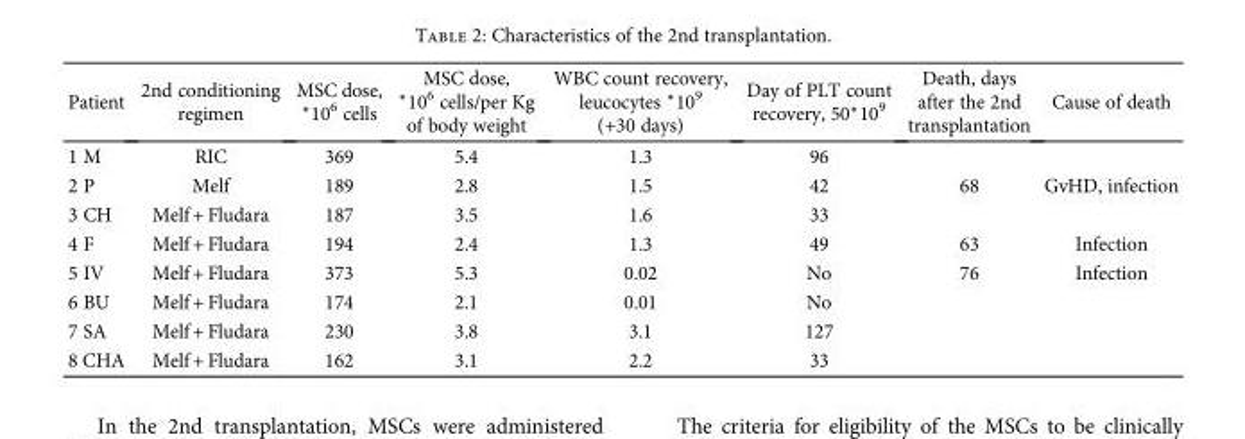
<table><thead><tr><td>Patient</td><td>2nd conditioning regimen</td><td>MSC dose, ∗10<sup>6</sup> cells</td><td>MSC dose, ∗10<sup>6</sup> cells/per Kg of body weight</td><td>WBC count recovery, leucocytes ∗10<sup>9</sup> (+30 days)</td><td>Day of PLT count recovery, 50∗10<sup>9</sup></td><td>Death, days after the 2nd transplantation</td><td>Cause of death</td></tr></thead><tbody><tr><td>1 M</td><td>RIC</td><td>369</td><td>5.4</td><td>1.3</td><td>96</td><td></td><td></td></tr><tr><td>2 P</td><td>Melf</td><td>189</td><td>2.8</td><td>1.5</td><td>42</td><td>68</td><td>GvHD, infection</td></tr><tr><td>3 CH</td><td>Melf + Fludara</td><td>187</td><td>3.5</td><td>1.6</td><td>33</td><td></td><td></td></tr><tr><td>4 F</td><td>Melf + Fludara</td><td>194</td><td>2.4</td><td>1.3</td><td>49</td><td>63</td><td>Infection</td></tr><tr><td>5 IV</td><td>Melf + Fludara</td><td>373</td><td>5.3</td><td>0.02</td><td>No</td><td>76</td><td>Infection</td></tr><tr><td>6 BU</td><td>Melf + Fludara</td><td>174</td><td>2.1</td><td>0.01</td><td>No</td><td></td><td></td></tr><tr><td>7 SA</td><td>Melf + Fludara</td><td>230</td><td>3.8</td><td>3.1</td><td>127</td><td></td><td></td></tr><tr><td>8 CHA</td><td>Melf + Fludara</td><td>162</td><td>3.1</td><td>2.2</td><td>33</td><td></td><td></td></tr></tbody></table>